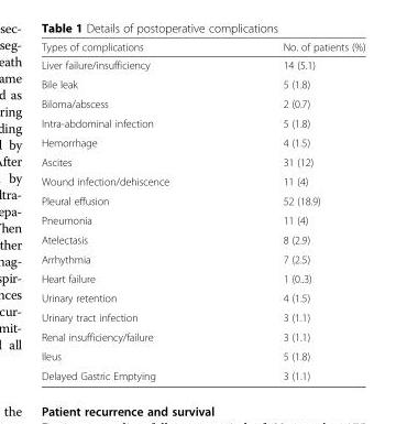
<table><thead><tr><td>Types of complications</td><td>No. of patients (%)</td></tr></thead><tbody><tr><td>Liver failure/insufficiency</td><td>14 (5.1)</td></tr><tr><td>Bile leak</td><td>5 (1.8)</td></tr><tr><td>Biloma/abscess</td><td>2 (0.7)</td></tr><tr><td>Intra-abdominal infection</td><td>5 (1.8)</td></tr><tr><td>Hemorrhage</td><td>4 (1.5)</td></tr><tr><td>Ascites</td><td>31 (12)</td></tr><tr><td>Wound infection/dehiscence</td><td>11 (4)</td></tr><tr><td>Pleural effusion</td><td>52 (18.9)</td></tr><tr><td>Pneumonia</td><td>11 (4)</td></tr><tr><td>Atelectasis</td><td>8 (2.9)</td></tr><tr><td>Arrhythmia</td><td>7 (2.5)</td></tr><tr><td>Heart failure</td><td>1 (0..3)</td></tr><tr><td>Urinary retention</td><td>4 (1.5)</td></tr><tr><td>Urinary tract infection</td><td>3 (1.1)</td></tr><tr><td>Renal insufficiency/failure</td><td>3 (1.1)</td></tr><tr><td>Ileus</td><td>5 (1.8)</td></tr><tr><td>Delayed Gastric Emptying</td><td>3 (1.1)</td></tr></tbody></table>